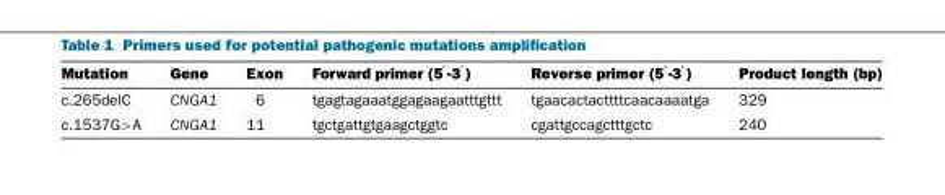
<table><thead><tr><td>Mutation</td><td>Gene</td><td>Exon</td><td>Forward primer (5 <sup>′</sup>-3 <sup>′</sup>)</td><td>Reverse primer (5 <sup>′</sup>-3 <sup>′</sup>)</td><td>Product length (bp)</td></tr></thead><tbody><tr><td>c.265delC</td><td>CNGA1</td><td>6</td><td>tgagtagaaatggagaagaatttgttt</td><td>tgaacactacttttcaacaaaatga</td><td>329</td></tr><tr><td>c.1537G&gt;A</td><td>CNGA1</td><td>11</td><td>tgctgattgtgaagctggtc</td><td>cgattgccagctttgctc</td><td>240</td></tr></tbody></table>